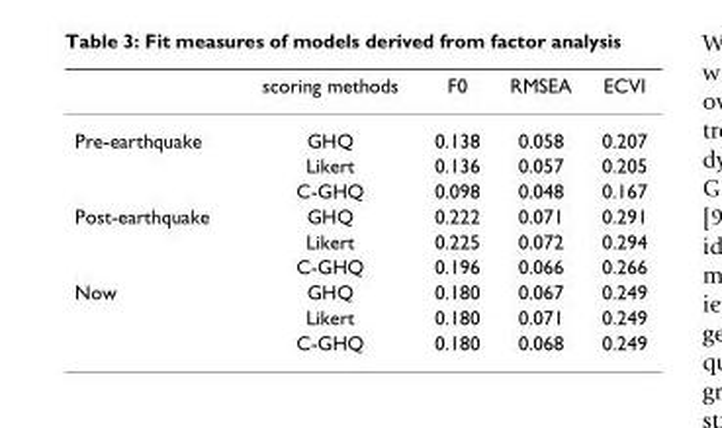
<table><thead><tr><td></td><td>scoring methods</td><td>F0</td><td>RMSEA</td><td>ECVI</td></tr></thead><tbody><tr><td rowspan="3">Pre-earthquake</td><td>GHQ</td><td>0.138</td><td>0.058</td><td>0.207</td></tr><tr><td>Likert</td><td>0.136</td><td>0.057</td><td>0.205</td></tr><tr><td>C-GHQ</td><td>0.098</td><td>0.048</td><td>0.167</td></tr><tr><td rowspan="3">Post-earthquake</td><td>GHQ</td><td>0.222</td><td>0.071</td><td>0.291</td></tr><tr><td>Likert</td><td>0.225</td><td>0.072</td><td>0.294</td></tr><tr><td>C-GHQ</td><td>0.196</td><td>0.066</td><td>0.266</td></tr><tr><td rowspan="3">Now</td><td>GHQ</td><td>0.180</td><td>0.067</td><td>0.249</td></tr><tr><td>Likert</td><td>0.180</td><td>0.071</td><td>0.249</td></tr><tr><td>C-GHQ</td><td>0.180</td><td>0.068</td><td>0.249</td></tr></tbody></table>